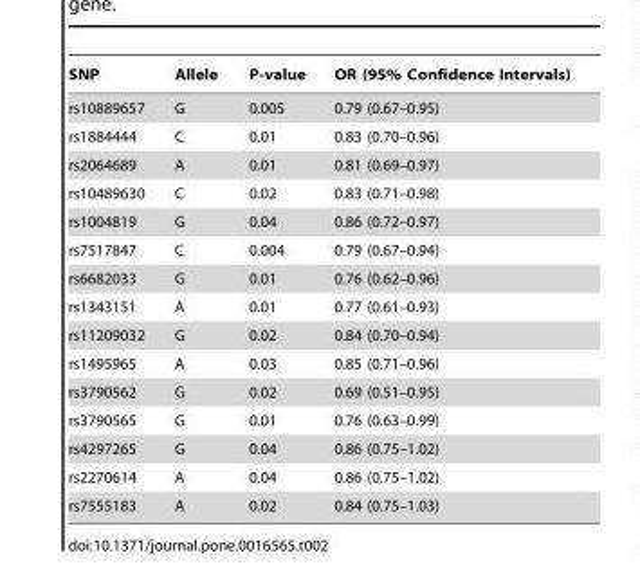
<table><thead><tr><td>SNP</td><td>Allele</td><td>P-value</td><td>OR (95% Confidence Intervals)</td></tr></thead><tbody><tr><td>rs10889657</td><td>G</td><td>0.005</td><td>0.79 (0.67–0.95)</td></tr><tr><td>rs1884444</td><td>C</td><td>0.01</td><td>0.83 (0.70–0.96)</td></tr><tr><td>rs2064689</td><td>A</td><td>0.01</td><td>0.81 (0.69–0.97)</td></tr><tr><td>rs10489630</td><td>C</td><td>0.02</td><td>0.83 (0.71–0.98)</td></tr><tr><td>rs1004819</td><td>G</td><td>0.04</td><td>0.86 (0.72–0.97)</td></tr><tr><td>rs7517847</td><td>C</td><td>0.004</td><td>0.79 (0.67–0.94)</td></tr><tr><td>rs6682033</td><td>G</td><td>0.01</td><td>0.76 (0.62–0.96)</td></tr><tr><td>rs1343151</td><td>A</td><td>0.01</td><td>0.77 (0.61–0.93)</td></tr><tr><td>rs11209032</td><td>G</td><td>0.02</td><td>0.84 (0.70–0.94)</td></tr><tr><td>rs1495965</td><td>A</td><td>0.03</td><td>0.85 (0.71–0.96)</td></tr><tr><td>rs3790562</td><td>G</td><td>0.02</td><td>0.69 (0.51–0.95)</td></tr><tr><td>rs3790565</td><td>G</td><td>0.01</td><td>0.76 (0.63–0.99)</td></tr><tr><td>rs4297265</td><td>G</td><td>0.04</td><td>0.86 (0.75–1.02)</td></tr><tr><td>rs2270614</td><td>A</td><td>0.04</td><td>0.86 (0.75–1.02)</td></tr><tr><td>rs7555183</td><td>A</td><td>0.02</td><td>0.84 (0.75–1.03)</td></tr></tbody></table>